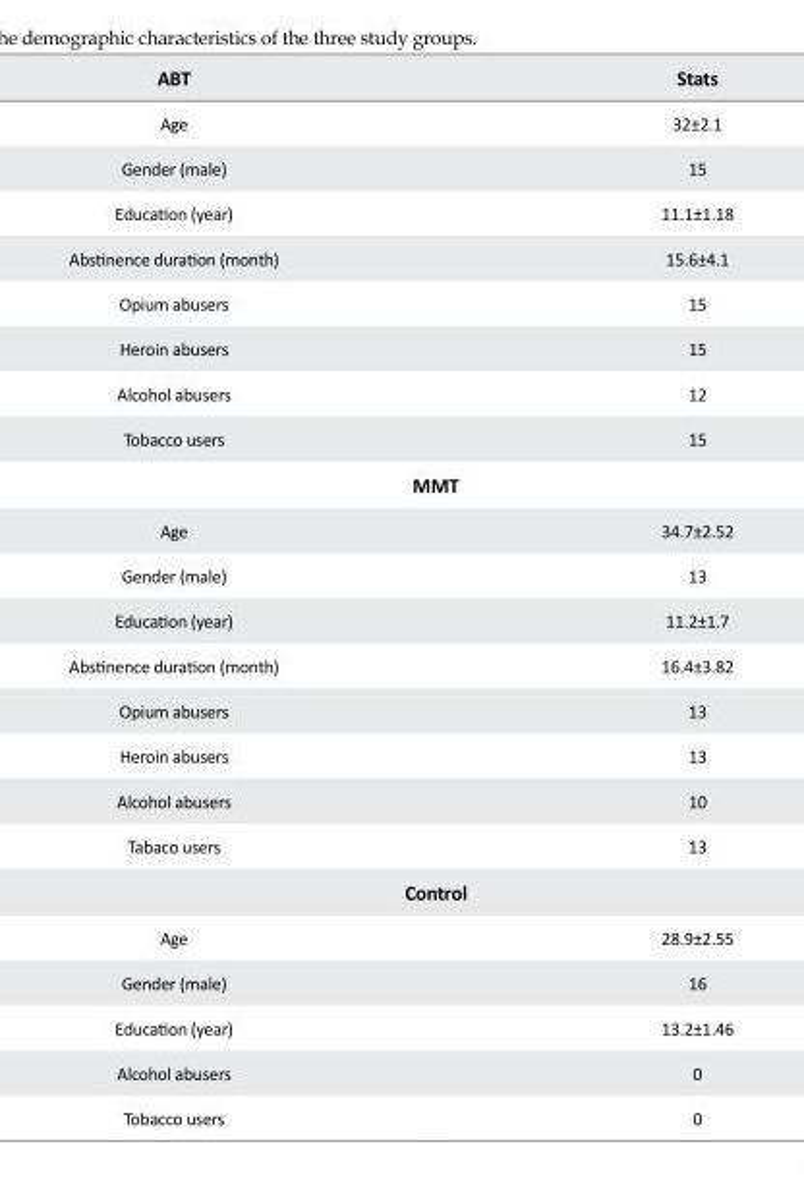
<table><thead><tr><td>ABT</td><td>Stats</td></tr></thead><tbody><tr><td>Age</td><td>32±2.1</td></tr><tr><td>Gender (male)</td><td>15</td></tr><tr><td>Education (year)</td><td>11.1±1.18</td></tr><tr><td>Abstinence duration (month)</td><td>15.6±4.1</td></tr><tr><td>Opium abusers</td><td>15</td></tr><tr><td>Heroin abusers</td><td>15</td></tr><tr><td>Alcohol abusers</td><td>12</td></tr><tr><td>Tobacco users</td><td>15</td></tr><tr><td colspan="2">MMT</td></tr><tr><td>Age</td><td>34.7±2.52</td></tr><tr><td>Gender (male)</td><td>13</td></tr><tr><td>Education (year)</td><td>11.2±1.7</td></tr><tr><td>Abstinence duration (month)</td><td>16.4±3.82</td></tr><tr><td>Opium abusers</td><td>13</td></tr><tr><td>Heroin abusers</td><td>13</td></tr><tr><td>Alcohol abusers</td><td>10</td></tr><tr><td>Tabaco users</td><td>13</td></tr><tr><td colspan="2">Control</td></tr><tr><td>Age</td><td>28.9±2.55</td></tr><tr><td>Gender (male)</td><td>16</td></tr><tr><td>Education (year)</td><td>13.2±1.46</td></tr><tr><td>Alcohol abusers</td><td>0</td></tr><tr><td>Tobacco users</td><td>0</td></tr></tbody></table>